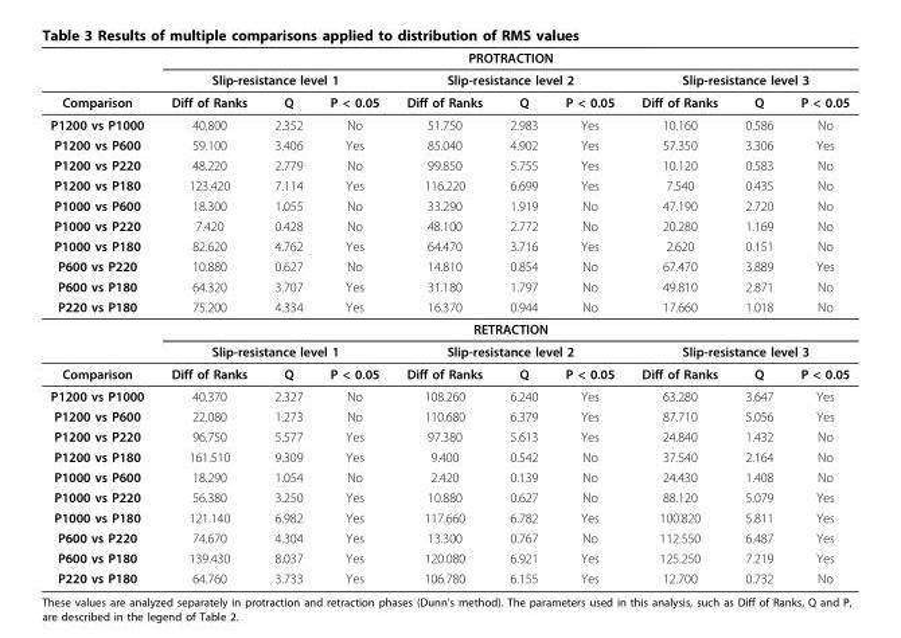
<table><thead><tr><td rowspan="3">Comparison</td><td colspan="9">PROTRACTION</td></tr><tr><td colspan="3">Slip-resistance level 1</td><td colspan="3">Slip-resistance level 2</td><td colspan="3">Slip-resistance level 3</td></tr><tr><td>Diff of Ranks</td><td>Q</td><td>P &lt; 0.05</td><td>Diff of Ranks</td><td>Q</td><td>P &lt; 0.05</td><td>Diff of Ranks</td><td>Q</td><td>P &lt; 0.05</td></tr></thead><tbody><tr><td>P1200 vs P1000</td><td>40.800</td><td>2.352</td><td>No</td><td>51.750</td><td>2.983</td><td>Yes</td><td>10.160</td><td>0.586</td><td>No</td></tr><tr><td>P1200 vs P600</td><td>59.100</td><td>3.406</td><td>Yes</td><td>85.040</td><td>4.902</td><td>Yes</td><td>57.350</td><td>3.306</td><td>Yes</td></tr><tr><td>P1200 vs P220</td><td>48.220</td><td>2.779</td><td>No</td><td>99.850</td><td>5.755</td><td>Yes</td><td>10.120</td><td>0.583</td><td>No</td></tr><tr><td>P1200 vs P180</td><td>123.420</td><td>7.114</td><td>Yes</td><td>116.220</td><td>6.699</td><td>Yes</td><td>7.540</td><td>0.435</td><td>No</td></tr><tr><td>P1000 vs P600</td><td>18.300</td><td>1.055</td><td>No</td><td>33.290</td><td>1.919</td><td>No</td><td>47.190</td><td>2.720</td><td>No</td></tr><tr><td>P1000 vs P220</td><td>7.420</td><td>0.428</td><td>No</td><td>48.100</td><td>2.772</td><td>No</td><td>20.280</td><td>1.169</td><td>No</td></tr><tr><td>P1000 vs P180</td><td>82.620</td><td>4.762</td><td>Yes</td><td>64.470</td><td>3.716</td><td>Yes</td><td>2.620</td><td>0.151</td><td>No</td></tr><tr><td>P600 vs P220</td><td>10.880</td><td>0.627</td><td>No</td><td>14.810</td><td>0.854</td><td>No</td><td>67.470</td><td>3.889</td><td>Yes</td></tr><tr><td>P600 vs P180</td><td>64.320</td><td>3.707</td><td>Yes</td><td>31.180</td><td>1.797</td><td>No</td><td>49.810</td><td>2.871</td><td>No</td></tr><tr><td rowspan="3">P220 vs P180</td><td>75.200</td><td>4.334</td><td>Yes</td><td>16.370</td><td>0.944</td><td>No</td><td>17.660</td><td>1.018</td><td>No</td></tr><tr><td colspan="9">RETRACTION</td></tr><tr><td colspan="3">Slip-resistance level 1</td><td colspan="3">Slip-resistance level 2</td><td colspan="3">Slip-resistance level 3</td></tr><tr><td>Comparison</td><td>Diff of Ranks</td><td>Q</td><td>P &lt; 0.05</td><td>Diff of Ranks</td><td>Q</td><td>P &lt; 0.05</td><td>Diff of Ranks</td><td>Q</td><td>P &lt; 0.05</td></tr><tr><td>P1200 vs P1000</td><td>40.370</td><td>2.327</td><td>No</td><td>108.260</td><td>6.240</td><td>Yes</td><td>63.280</td><td>3.647</td><td>Yes</td></tr><tr><td>P1200 vs P600</td><td>22.080</td><td>1.273</td><td>No</td><td>110.680</td><td>6.379</td><td>Yes</td><td>87.710</td><td>5.056</td><td>Yes</td></tr><tr><td>P1200 vs P220</td><td>96.750</td><td>5.577</td><td>Yes</td><td>97.380</td><td>5.613</td><td>Yes</td><td>24.840</td><td>1.432</td><td>No</td></tr><tr><td>P1200 vs P180</td><td>161.510</td><td>9.309</td><td>Yes</td><td>9.400</td><td>0.542</td><td>No</td><td>37.540</td><td>2.164</td><td>No</td></tr><tr><td>P1000 vs P600</td><td>18.290</td><td>1.054</td><td>No</td><td>2.420</td><td>0.139</td><td>No</td><td>24.430</td><td>1.408</td><td>No</td></tr><tr><td>P1000 vs P220</td><td>56.380</td><td>3.250</td><td>Yes</td><td>10.880</td><td>0.627</td><td>No</td><td>88.120</td><td>5.079</td><td>Yes</td></tr><tr><td>P1000 vs P180</td><td>121.140</td><td>6.982</td><td>Yes</td><td>117.660</td><td>6.782</td><td>Yes</td><td>100.820</td><td>5.811</td><td>Yes</td></tr><tr><td>P600 vs P220</td><td>74.670</td><td>4.304</td><td>Yes</td><td>13.300</td><td>0.767</td><td>No</td><td>112.550</td><td>6.487</td><td>Yes</td></tr><tr><td>P600 vs P180</td><td>139.430</td><td>8.037</td><td>Yes</td><td>120.080</td><td>6.921</td><td>Yes</td><td>125.250</td><td>7.219</td><td>Yes</td></tr><tr><td>P220 vs P180</td><td>64.760</td><td>3.733</td><td>Yes</td><td>106.780</td><td>6.155</td><td>Yes</td><td>12.700</td><td>0.732</td><td>No</td></tr></tbody></table>